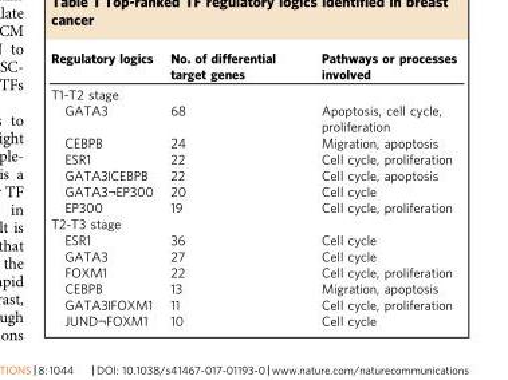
<table><thead><tr><td>Regulatory logics</td><td>No. of differential target genes</td><td>Pathways or processes involved</td></tr></thead><tbody><tr><td colspan="3">T1-T2 stage</td></tr><tr><td>GATA3</td><td>68</td><td>Apoptosis, cell cycle, proliferation</td></tr><tr><td>CEBPB</td><td>24</td><td>Migration, apoptosis</td></tr><tr><td>ESR1</td><td>22</td><td>Cell cycle, proliferation</td></tr><tr><td>GATA3|CEBPB</td><td>22</td><td>Cell cycle, apoptosis</td></tr><tr><td>GATA3¬EP300</td><td>20</td><td>Cell cycle</td></tr><tr><td>EP300</td><td>19</td><td>Cell cycle, proliferation</td></tr><tr><td colspan="3">T2-T3 stage</td></tr><tr><td>ESR1</td><td>36</td><td>Cell cycle</td></tr><tr><td>GATA3</td><td>27</td><td>Cell cycle</td></tr><tr><td>FOXM1</td><td>22</td><td>Cell cycle, proliferation</td></tr><tr><td>CEBPB</td><td>13</td><td>Migration, apoptosis</td></tr><tr><td>GATA3|FOXM1</td><td>11</td><td>Cell cycle, proliferation</td></tr><tr><td>JUND¬FOXM1</td><td>10</td><td>Cell cycle</td></tr></tbody></table>